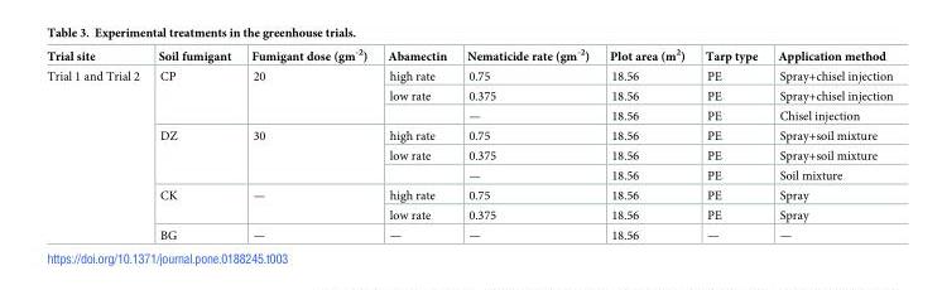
<table><thead><tr><td>Trial site</td><td>Soil fumigant</td><td>Fumigant dose (gm<sup>-2</sup>)</td><td>Abamectin</td><td>Nematicide rate (gm<sup>-2</sup>)</td><td>Plot area (m<sup>2</sup>)</td><td>Tarp type</td><td>Application method</td></tr></thead><tbody><tr><td rowspan="9">Trial 1 and Trial 2</td><td rowspan="3">CP</td><td rowspan="3">20</td><td>high rate</td><td>0.75</td><td>18.56</td><td>PE</td><td>Spray+chisel injection</td></tr><tr><td>low rate</td><td>0.375</td><td>18.56</td><td>PE</td><td>Spray+chisel injection</td></tr><tr><td></td><td>—</td><td>18.56</td><td>PE</td><td>Chisel injection</td></tr><tr><td rowspan="3">DZ</td><td rowspan="3">30</td><td>high rate</td><td>0.75</td><td>18.56</td><td>PE</td><td>Spray+soil mixture</td></tr><tr><td>low rate</td><td>0.375</td><td>18.56</td><td>PE</td><td>Spray+soil mixture</td></tr><tr><td></td><td>—</td><td>18.56</td><td>PE</td><td>Soil mixture</td></tr><tr><td rowspan="2">CK</td><td rowspan="2">—</td><td>high rate</td><td>0.75</td><td>18.56</td><td>PE</td><td>Spray</td></tr><tr><td>low rate</td><td>0.375</td><td>18.56</td><td>PE</td><td>Spray</td></tr><tr><td>BG</td><td>—</td><td>—</td><td>—</td><td>18.56</td><td>—</td><td>—</td></tr></tbody></table>